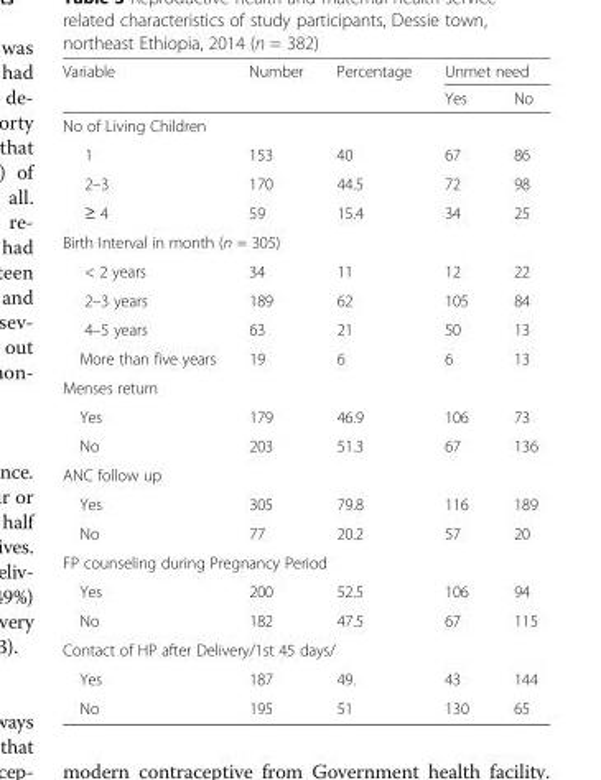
<table><thead><tr><td rowspan="2">Variable</td><td rowspan="2">Number</td><td rowspan="2">Percentage</td><td colspan="2">Unmet need</td></tr><tr><td>Yes</td><td>No</td></tr></thead><tbody><tr><td colspan="5">No of Living Children</td></tr><tr><td>1</td><td>153</td><td>40</td><td>67</td><td>86</td></tr><tr><td>2–3</td><td>170</td><td>44.5</td><td>72</td><td>98</td></tr><tr><td>≥ 4</td><td>59</td><td>15.4</td><td>34</td><td>25</td></tr><tr><td colspan="5">Birth Interval in month (n = 305)</td></tr><tr><td>&lt; 2 years</td><td>34</td><td>11</td><td>12</td><td>22</td></tr><tr><td>2–3 years</td><td>189</td><td>62</td><td>105</td><td>84</td></tr><tr><td>4–5 years</td><td>63</td><td>21</td><td>50</td><td>13</td></tr><tr><td>More than five years</td><td>19</td><td>6</td><td>6</td><td>13</td></tr><tr><td colspan="5">Menses return</td></tr><tr><td>Yes</td><td>179</td><td>46.9</td><td>106</td><td>73</td></tr><tr><td>No</td><td>203</td><td>51.3</td><td>67</td><td>136</td></tr><tr><td colspan="5">ANC follow up</td></tr><tr><td>Yes</td><td>305</td><td>79.8</td><td>116</td><td>189</td></tr><tr><td>No</td><td>77</td><td>20.2</td><td>57</td><td>20</td></tr><tr><td colspan="5">FP counseling during Pregnancy Period</td></tr><tr><td>Yes</td><td>200</td><td>52.5</td><td>106</td><td>94</td></tr><tr><td>No</td><td>182</td><td>47.5</td><td>67</td><td>115</td></tr><tr><td colspan="5">Contact of HP after Delivery/1st 45 days/</td></tr><tr><td>Yes</td><td>187</td><td>49.</td><td>43</td><td>144</td></tr><tr><td>No</td><td>195</td><td>51</td><td>130</td><td>65</td></tr></tbody></table>